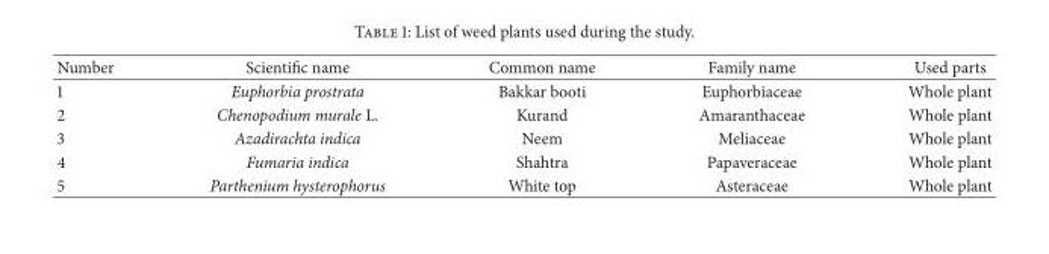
<table><thead><tr><td>Number</td><td>Scientific name</td><td>Common name</td><td>Family name</td><td>Used parts</td></tr></thead><tbody><tr><td>1</td><td>Euphorbia prostrata</td><td>Bakkar booti</td><td>Euphorbiaceae</td><td>Whole plant</td></tr><tr><td>2</td><td>Chenopodium murale L.</td><td>Kurand</td><td>Amaranthaceae</td><td>Whole plant</td></tr><tr><td>3</td><td>Azadirachta indica</td><td>Neem</td><td>Meliaceae</td><td>Whole plant</td></tr><tr><td>4</td><td>Fumaria indica</td><td>Shahtra</td><td>Papaveraceae</td><td>Whole plant</td></tr><tr><td>5</td><td>Parthenium hysterophorus</td><td>White top</td><td>Asteraceae</td><td>Whole plant</td></tr></tbody></table>